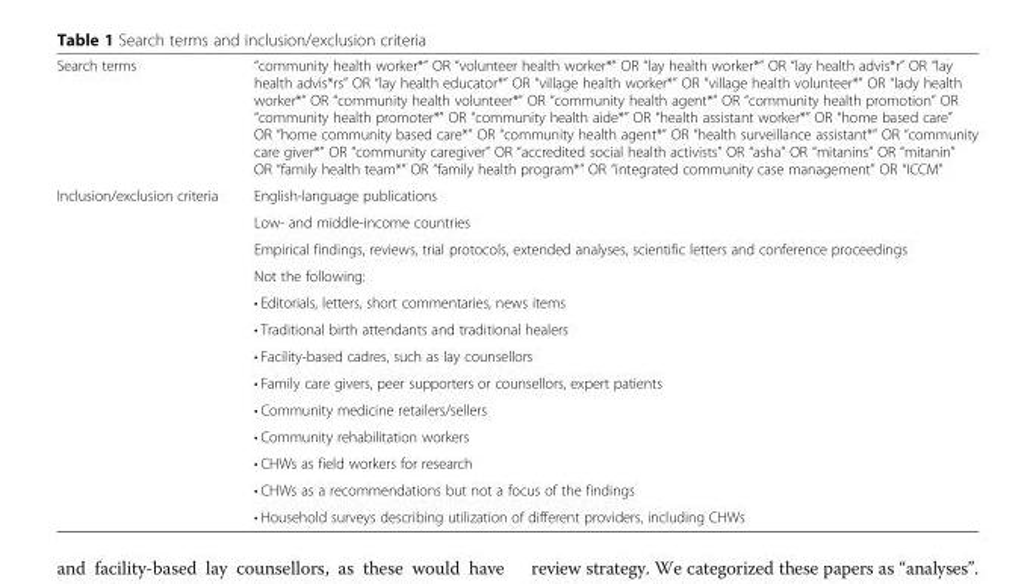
<table><tbody><tr><td>Search terms</td><td>“community health worker*” OR “volunteer health worker*” OR “lay health worker*” OR “lay health advis*r” OR “lay health advis*rs” OR “lay health educator*” OR “village health worker*” OR “village health volunteer*” OR “lady health worker*” OR “community health volunteer*” OR “community health agent*” OR “community health promotion” OR “community health promoter*” OR “community health aide*” OR “health assistant worker*” OR “home based care” OR “home community based care*” OR “community health agent*” OR “health surveillance assistant*” OR “community care giver*” OR “community caregiver” OR “accredited social health activists” OR “asha” OR “mitanins” OR “mitanin” OR “family health team*” OR “family health program*” OR “integrated community case management” OR “ICCM”</td></tr><tr><td rowspan="13">Inclusion/exclusion criteria</td><td>English-language publications</td></tr><tr><td>Low- and middle-income countries</td></tr><tr><td>Empirical findings, reviews, trial protocols, extended analyses, scientific letters and conference proceedings</td></tr><tr><td>Not the following:</td></tr><tr><td>• Editorials, letters, short commentaries, news items</td></tr><tr><td>• Traditional birth attendants and traditional healers</td></tr><tr><td>• Facility-based cadres, such as lay counsellors</td></tr><tr><td>• Family care givers, peer supporters or counsellors, expert patients</td></tr><tr><td>• Community medicine retailers/sellers</td></tr><tr><td>• Community rehabilitation workers</td></tr><tr><td>• CHWs as field workers for research</td></tr><tr><td>• CHWs as a recommendations but not a focus of the findings</td></tr><tr><td>• Household surveys describing utilization of different providers, including CHWs</td></tr></tbody></table>